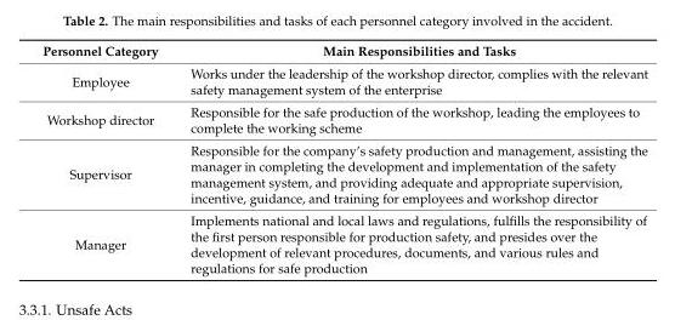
<table><thead><tr><td>Personnel Category</td><td>Main Responsibilities and Tasks</td></tr></thead><tbody><tr><td>Employee</td><td>Works under the leadership of the workshop director, complies with the relevant safety management system of the enterprise</td></tr><tr><td>Workshop director</td><td>Responsible for the safe production of the workshop, leading the employees to complete the working scheme</td></tr><tr><td>Supervisor</td><td>Responsible for the company’s safety production and management, assisting the manager in completing the development and implementation of the safety management system, and providing adequate and appropriate supervision, incentive, guidance, and training for employees and workshop director</td></tr><tr><td>Manager</td><td>Implements national and local laws and regulations, fulfills the responsibility of the first person responsible for production safety, and presides over the development of relevant procedures, documents, and various rules and regulations for safe production</td></tr></tbody></table>